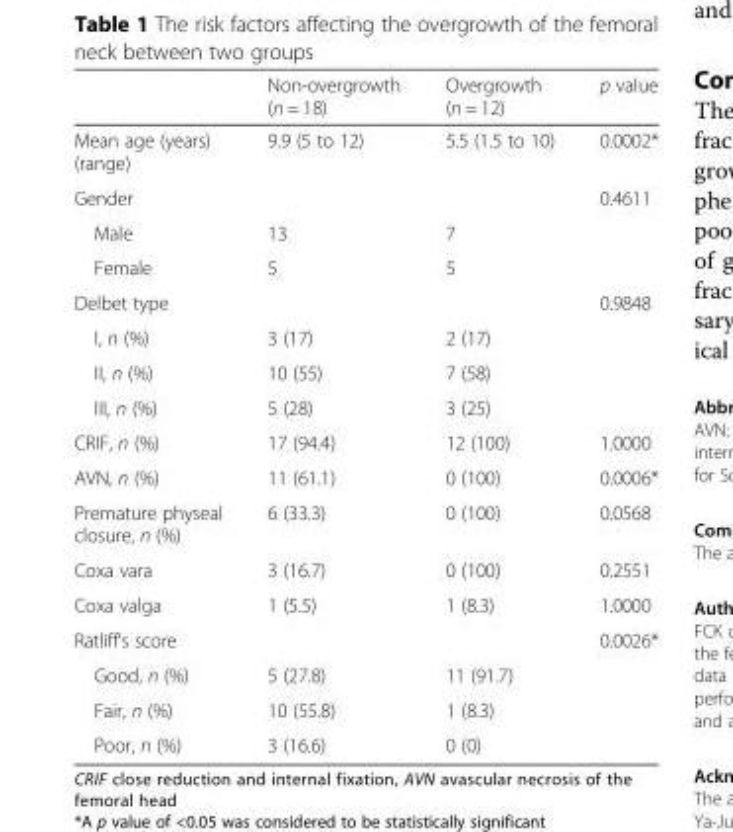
<table><thead><tr><td></td><td>Non-overgrowth (n = 18)</td><td>Overgrowth (n = 12)</td><td>p value</td></tr></thead><tbody><tr><td>Mean age (years) (range)</td><td>9.9 (5 to 12)</td><td>5.5 (1.5 to 10)</td><td>0.0002*</td></tr><tr><td>Gender</td><td></td><td></td><td>0.4611</td></tr><tr><td>Male</td><td>13</td><td>7</td><td></td></tr><tr><td>Female</td><td>5</td><td>5</td><td></td></tr><tr><td>Delbet type</td><td></td><td></td><td>0.9848</td></tr><tr><td>I, n (%)</td><td>3 (17)</td><td>2 (17)</td><td></td></tr><tr><td>II, n (%)</td><td>10 (55)</td><td>7 (58)</td><td></td></tr><tr><td>III, n (%)</td><td>5 (28)</td><td>3 (25)</td><td></td></tr><tr><td>CRIF, n (%)</td><td>17 (94.4)</td><td>12 (100)</td><td>1.0000</td></tr><tr><td>AVN, n (%)</td><td>11 (61.1)</td><td>0 (100)</td><td>0.0006*</td></tr><tr><td>Premature physeal closure, n (%)</td><td>6 (33.3)</td><td>0 (100)</td><td>0.0568</td></tr><tr><td>Coxa vara</td><td>3 (16.7)</td><td>0 (100)</td><td>0.2551</td></tr><tr><td>Coxa valga</td><td>1 (5.5)</td><td>1 (8.3)</td><td>1.0000</td></tr><tr><td>Ratliff’s score</td><td></td><td></td><td>0.0026*</td></tr><tr><td>Good, n (%)</td><td>5 (27.8)</td><td>11 (91.7)</td><td></td></tr><tr><td>Fair, n (%)</td><td>10 (55.8)</td><td>1 (8.3)</td><td></td></tr><tr><td>Poor, n (%)</td><td>3 (16.6)</td><td>0 (0)</td><td></td></tr></tbody></table>